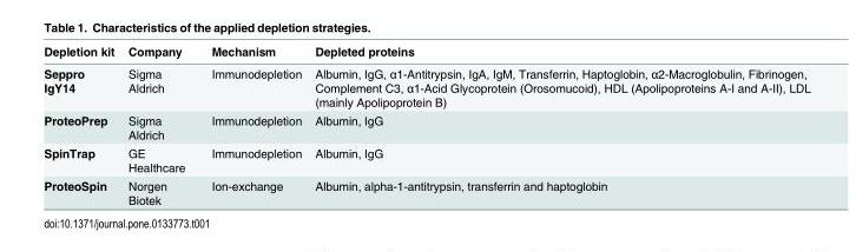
<table><thead><tr><td>Depletion kit</td><td>Company</td><td>Mechanism</td><td>Depleted proteins</td></tr></thead><tbody><tr><td>Seppro IgY14</td><td>Sigma Aldrich</td><td>Immunodepletion</td><td>Albumin, IgG, α1-Antitrypsin, IgA, IgM, Transferrin, Haptoglobin, α2-Macroglobulin, Fibrinogen, Complement C3, α1-Acid Glycoprotein (Orosomucoid), HDL (Apolipoproteins A-I and A-II), LDL (mainly Apolipoprotein B)</td></tr><tr><td>ProteoPrep</td><td>Sigma Aldrich</td><td>Immunodepletion</td><td>Albumin, IgG</td></tr><tr><td>SpinTrap</td><td>GE Healthcare</td><td>Immunodepletion</td><td>Albumin, IgG</td></tr><tr><td>ProteoSpin</td><td>Norgen Biotek</td><td>Ion-exchange</td><td>Albumin, alpha-1-antitrypsin, transferrin and haptoglobin</td></tr></tbody></table>